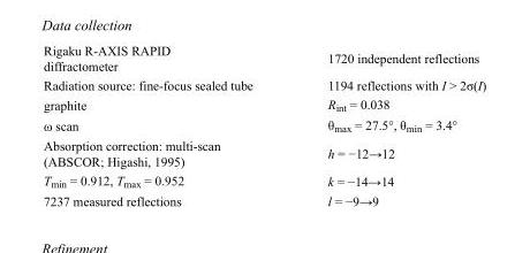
<table><tbody><tr><td>Rigaku R-AXIS RAPID diffractometer</td><td>1720 independent reflections</td></tr><tr><td>Radiation source: fine-focus sealed tube</td><td>1194 reflections with I &gt; 2σ(I)</td></tr><tr><td>graphite</td><td>R<sub>int</sub> = 0.038</td></tr><tr><td>ω scan</td><td>θ<sub>max</sub> = 27.5°, θ<sub>min</sub> = 3.4°</td></tr><tr><td>Absorption correction: multi-scan (ABSCOR; Higashi, 1995)</td><td>h = −12→12</td></tr><tr><td>T<sub>min</sub> = 0.912, T<sub>max</sub> = 0.952</td><td>k = −14→14</td></tr><tr><td>7237 measured reflections</td><td>l = −9→9</td></tr></tbody></table>